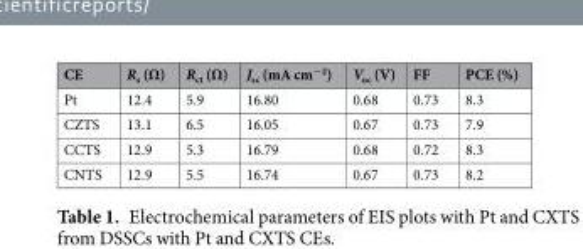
<table><thead><tr><td>CE</td><td>R<sub>s</sub> (Ω)</td><td>R<sub>ct</sub> (Ω)</td><td>J<sub>sc</sub> (mA cm<sup>−2</sup>)</td><td>V<sub>oc</sub> (V)</td><td>FF</td><td>PCE (%)</td></tr></thead><tbody><tr><td>Pt</td><td>12.4</td><td>5.9</td><td>16.80</td><td>0.68</td><td>0.73</td><td>8.3</td></tr><tr><td>CZTS</td><td>13.1</td><td>6.5</td><td>16.05</td><td>0.67</td><td>0.73</td><td>7.9</td></tr><tr><td>CCTS</td><td>12.9</td><td>5.3</td><td>16.79</td><td>0.68</td><td>0.72</td><td>8.3</td></tr><tr><td>CNTS</td><td>12.9</td><td>5.5</td><td>16.74</td><td>0.67</td><td>0.73</td><td>8.2</td></tr></tbody></table>